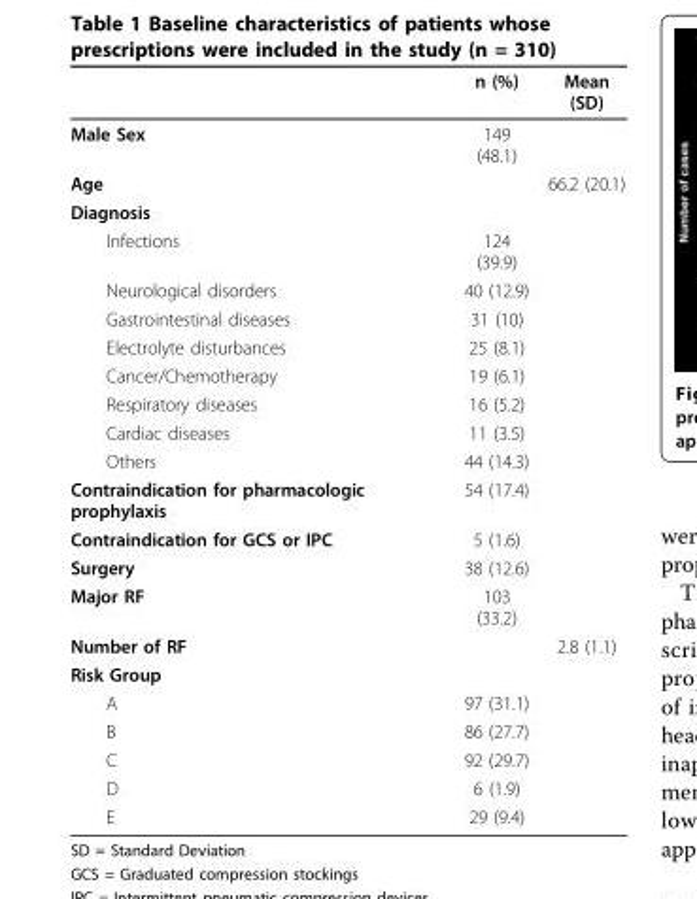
<table><thead><tr><td></td><td>n (%)</td><td>Mean (SD)</td></tr></thead><tbody><tr><td>Male Sex</td><td>149 (48.1)</td><td></td></tr><tr><td>Age</td><td></td><td>66.2 (20.1)</td></tr><tr><td colspan="3">Diagnosis</td></tr><tr><td>Infections</td><td>124 (39.9)</td><td></td></tr><tr><td>Neurological disorders</td><td>40 (12.9)</td><td></td></tr><tr><td>Gastrointestinal diseases</td><td>31 (10)</td><td></td></tr><tr><td>Electrolyte disturbances</td><td>25 (8.1)</td><td></td></tr><tr><td>Cancer/Chemotherapy</td><td>19 (6.1)</td><td></td></tr><tr><td>Respiratory diseases</td><td>16 (5.2)</td><td></td></tr><tr><td>Cardiac diseases</td><td>11 (3.5)</td><td></td></tr><tr><td>Others</td><td>44 (14.3)</td><td></td></tr><tr><td>Contraindication for pharmacologic prophylaxis</td><td>54 (17.4)</td><td></td></tr><tr><td>Contraindication for GCS or IPC</td><td>5 (1.6)</td><td></td></tr><tr><td>Surgery</td><td>38 (12.6)</td><td></td></tr><tr><td>Major RF</td><td>103 (33.2)</td><td></td></tr><tr><td>Number of RF</td><td></td><td>2.8 (1.1)</td></tr><tr><td colspan="3">Risk Group</td></tr><tr><td>A</td><td>97 (31.1)</td><td></td></tr><tr><td>B</td><td>86 (27.7)</td><td></td></tr><tr><td>C</td><td>92 (29.7)</td><td></td></tr><tr><td>D</td><td>6 (1.9)</td><td></td></tr><tr><td>E</td><td>29 (9.4)</td><td></td></tr></tbody></table>